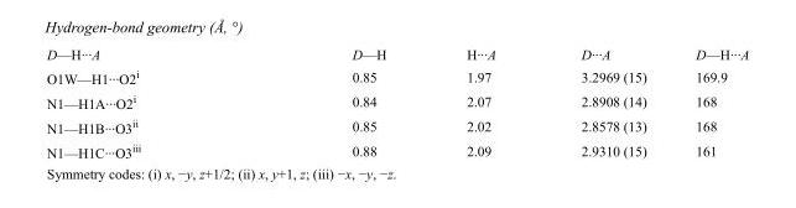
<table><tbody><tr><td>D—H···A</td><td>D—H</td><td>H···A</td><td>D···A</td><td>D—H···A</td></tr><tr><td>O1W—H1···O2<sup>i</sup></td><td>0.85</td><td>1.97</td><td>3.2969 (15)</td><td>169.9</td></tr><tr><td>N1—H1A···O2<sup>i</sup></td><td>0.84</td><td>2.07</td><td>2.8908 (14)</td><td>168</td></tr><tr><td>N1—H1B···O3<sup>ii</sup></td><td>0.85</td><td>2.02</td><td>2.8578 (13)</td><td>168</td></tr><tr><td>N1—H1C···O3<sup>iii</sup></td><td>0.88</td><td>2.09</td><td>2.9310 (15)</td><td>161</td></tr></tbody></table>